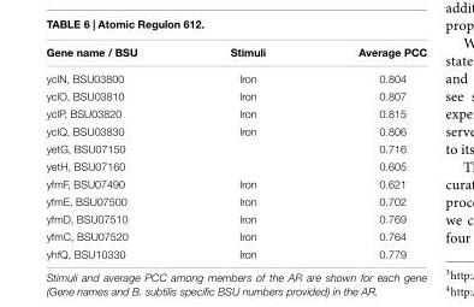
<table><thead><tr><td>Gene name / BSU</td><td>Stimuli</td><td>Average PCC</td></tr></thead><tbody><tr><td>yclN, BSU03800</td><td>Iron</td><td>0.804</td></tr><tr><td>yclO, BSU03810</td><td>Iron</td><td>0.807</td></tr><tr><td>yclP, BSU03820</td><td>Iron</td><td>0.815</td></tr><tr><td>yclQ, BSU03830</td><td>Iron</td><td>0.806</td></tr><tr><td>yetG, BSU07150</td><td></td><td>0.716</td></tr><tr><td>yetH, BSU07160</td><td></td><td>0.605</td></tr><tr><td>yfmF, BSU07490</td><td>Iron</td><td>0.621</td></tr><tr><td>yfmE, BSU07500</td><td>Iron</td><td>0.702</td></tr><tr><td>yfmD, BSU07510</td><td>Iron</td><td>0.769</td></tr><tr><td>yfmC, BSU07520</td><td>Iron</td><td>0.764</td></tr><tr><td>yhfQ, BSU10330</td><td>Iron</td><td>0.779</td></tr></tbody></table>